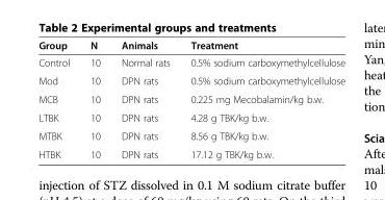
<table><thead><tr><td>Group</td><td>N</td><td>Animals</td><td>Treatment</td></tr></thead><tbody><tr><td>Control</td><td>10</td><td>Normal rats</td><td>0.5% sodium carboxymethylcellulose</td></tr><tr><td>Mod</td><td>10</td><td>DPN rats</td><td>0.5% sodium carboxymethylcellulose</td></tr><tr><td>MCB</td><td>10</td><td>DPN rats</td><td>0.225 mg Mecobalamin/kg b.w.</td></tr><tr><td>LTBK</td><td>10</td><td>DPN rats</td><td>4.28 g TBK/kg b.w.</td></tr><tr><td>MTBK</td><td>10</td><td>DPN rats</td><td>8.56 g TBK/kg b.w.</td></tr><tr><td>HTBK</td><td>10</td><td>DPN rats</td><td>17.12 g TBK/kg b.w.</td></tr></tbody></table>